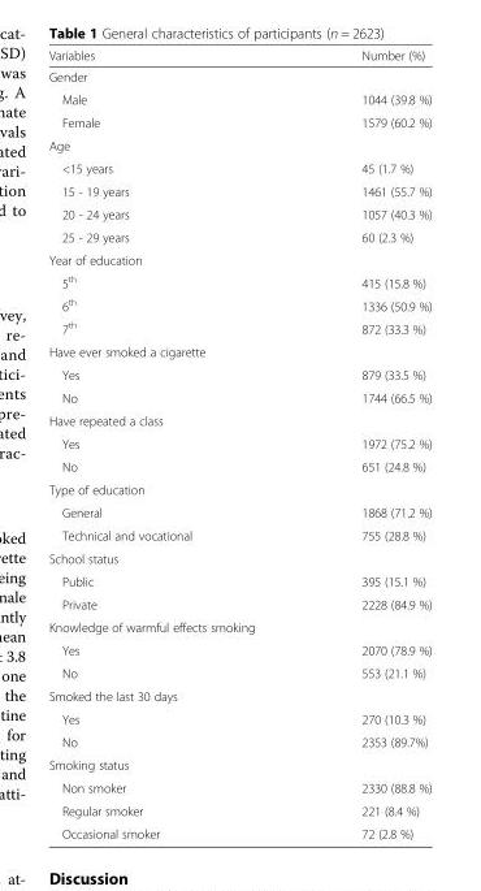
<table><thead><tr><td>Variables</td><td>Number (%)</td></tr></thead><tbody><tr><td colspan="2">Gender</td></tr><tr><td>Male</td><td>1044 (39.8 %)</td></tr><tr><td>Female</td><td>1579 (60.2 %)</td></tr><tr><td colspan="2">Age</td></tr><tr><td>&lt;15 years</td><td>45 (1.7 %)</td></tr><tr><td>15 - 19 years</td><td>1461 (55.7 %)</td></tr><tr><td>20 - 24 years</td><td>1057 (40.3 %)</td></tr><tr><td>25 - 29 years</td><td>60 (2.3 %)</td></tr><tr><td colspan="2">Year of education</td></tr><tr><td>5<sup>th</sup></td><td>415 (15.8 %)</td></tr><tr><td>6<sup>th</sup></td><td>1336 (50.9 %)</td></tr><tr><td>7<sup>th</sup></td><td>872 (33.3 %)</td></tr><tr><td colspan="2">Have ever smoked a cigarette</td></tr><tr><td>Yes</td><td>879 (33.5 %)</td></tr><tr><td>No</td><td>1744 (66.5 %)</td></tr><tr><td colspan="2">Have repeated a class</td></tr><tr><td>Yes</td><td>1972 (75.2 %)</td></tr><tr><td>No</td><td>651 (24.8 %)</td></tr><tr><td colspan="2">Type of education</td></tr><tr><td>General</td><td>1868 (71.2 %)</td></tr><tr><td>Technical and vocational</td><td>755 (28.8 %)</td></tr><tr><td colspan="2">School status</td></tr><tr><td>Public</td><td>395 (15.1 %)</td></tr><tr><td>Private</td><td>2228 (84.9 %)</td></tr><tr><td colspan="2">Knowledge of warmful effects smoking</td></tr><tr><td>Yes</td><td>2070 (78.9 %)</td></tr><tr><td>No</td><td>553 (21.1 %)</td></tr><tr><td colspan="2">Smoked the last 30 days</td></tr><tr><td>Yes</td><td>270 (10.3 %)</td></tr><tr><td>No</td><td>2353 (89.7%)</td></tr><tr><td colspan="2">Smoking status</td></tr><tr><td>Non smoker</td><td>2330 (88.8 %)</td></tr><tr><td>Regular smoker</td><td>221 (8.4 %)</td></tr><tr><td>Occasional smoker</td><td>72 (2.8 %)</td></tr></tbody></table>